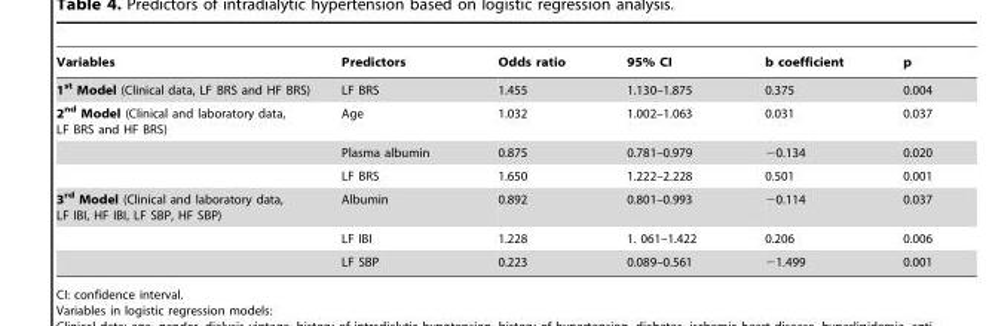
<table><thead><tr><td>Variables</td><td>Predictors</td><td>Odds ratio</td><td>95% CI</td><td>b coefficient</td><td>p</td></tr></thead><tbody><tr><td>1<sup>st</sup> Model (Clinical data, LF BRS and HF BRS)</td><td>LF BRS</td><td>1.455</td><td>1.130–1.875</td><td>0.375</td><td>0.004</td></tr><tr><td rowspan="3">2<sup>nd</sup> Model (Clinical and laboratory data, LF BRS and HF BRS)</td><td>Age</td><td>1.032</td><td>1.002–1.063</td><td>0.031</td><td>0.037</td></tr><tr><td>Plasma albumin</td><td>0.875</td><td>0.781–0.979</td><td>−0.134</td><td>0.020</td></tr><tr><td>LF BRS</td><td>1.650</td><td>1.222–2.228</td><td>0.501</td><td>0.001</td></tr><tr><td rowspan="3">3<sup>rd</sup> Model (Clinical and laboratory data, LF IBI, HF IBI, LF SBP, HF SBP)</td><td>Albumin</td><td>0.892</td><td>0.801–0.993</td><td>−0.114</td><td>0.037</td></tr><tr><td>LF IBI</td><td>1.228</td><td>1. 061–1.422</td><td>0.206</td><td>0.006</td></tr><tr><td>LF SBP</td><td>0.223</td><td>0.089–0.561</td><td>−1.499</td><td>0.001</td></tr></tbody></table>